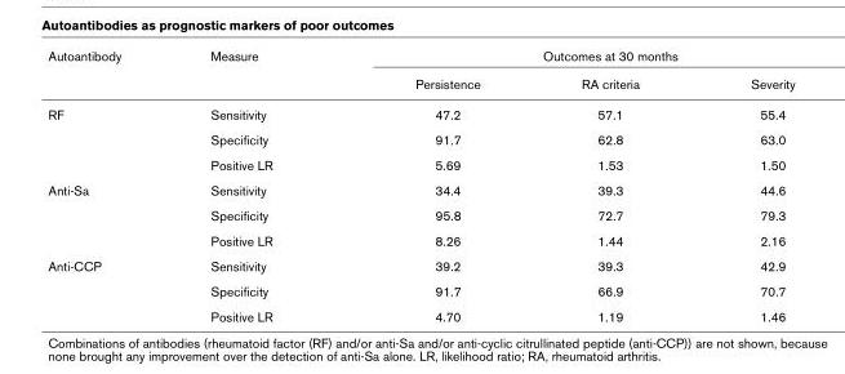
<table><thead><tr><td rowspan="2">Autoantibody</td><td rowspan="2">Measure</td><td colspan="3">Outcomes at 30 months</td></tr><tr><td>Persistence</td><td>RA criteria</td><td>Severity</td></tr></thead><tbody><tr><td rowspan="3">RF</td><td>Sensitivity</td><td>47.2</td><td>57.1</td><td>55.4</td></tr><tr><td>Specificity</td><td>91.7</td><td>62.8</td><td>63.0</td></tr><tr><td>Positive LR</td><td>5.69</td><td>1.53</td><td>1.50</td></tr><tr><td rowspan="3">Anti-Sa</td><td>Sensitivity</td><td>34.4</td><td>39.3</td><td>44.6</td></tr><tr><td>Specificity</td><td>95.8</td><td>72.7</td><td>79.3</td></tr><tr><td>Positive LR</td><td>8.26</td><td>1.44</td><td>2.16</td></tr><tr><td rowspan="3">Anti-CCP</td><td>Sensitivity</td><td>39.2</td><td>39.3</td><td>42.9</td></tr><tr><td>Specificity</td><td>91.7</td><td>66.9</td><td>70.7</td></tr><tr><td>Positive LR</td><td>4.70</td><td>1.19</td><td>1.46</td></tr></tbody></table>